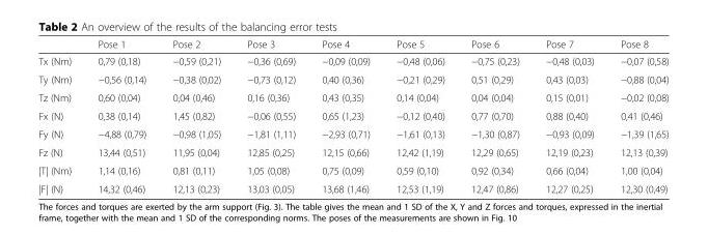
<table><thead><tr><td></td><td>Pose 1</td><td>Pose 2</td><td>Pose 3</td><td>Pose 4</td><td>Pose 5</td><td>Pose 6</td><td>Pose 7</td><td>Pose 8</td></tr></thead><tbody><tr><td>Tx (Nm)</td><td>0,79 (0,18)</td><td>−0,59 (0,21)</td><td>−0,36 (0,69)</td><td>−0,09 (0,09)</td><td>−0,48 (0,06)</td><td>−0,75 (0,23)</td><td>−0,48 (0,03)</td><td>−0,07 (0,58)</td></tr><tr><td>Ty (Nm)</td><td>−0,56 (0,14)</td><td>−0,38 (0,02)</td><td>−0,73 (0,12)</td><td>0,40 (0,36)</td><td>−0,21 (0,29)</td><td>0,51 (0,29)</td><td>0,43 (0,03)</td><td>−0,88 (0,04)</td></tr><tr><td>Tz (Nm)</td><td>0,60 (0,04)</td><td>0,04 (0,46)</td><td>0,16 (0,36)</td><td>0,43 (0,35)</td><td>0,14 (0,04)</td><td>0,04 (0,04)</td><td>0,15 (0,01)</td><td>−0,02 (0,08)</td></tr><tr><td>Fx (N)</td><td>0,38 (0,14)</td><td>1,45 (0,82)</td><td>−0,06 (0,55)</td><td>0,65 (1,23)</td><td>−0,12 (0,40)</td><td>0,77 (0,70)</td><td>0,88 (0,40)</td><td>0,41 (0,46)</td></tr><tr><td>Fy (N)</td><td>−4,88 (0,79)</td><td>−0,98 (1,05)</td><td>−1,81 (1,11)</td><td>−2,93 (0,71)</td><td>−1,61 (0,13)</td><td>−1,30 (0,87)</td><td>−0,93 (0,09)</td><td>−1,39 (1,65)</td></tr><tr><td>Fz (N)</td><td>13,44 (0,51)</td><td>11,95 (0,04)</td><td>12,85 (0,25)</td><td>12,15 (0,66)</td><td>12,42 (1,19)</td><td>12,29 (0,65)</td><td>12,19 (0,23)</td><td>12,13 (0,39)</td></tr><tr><td>|T| (Nm)</td><td>1,14 (0,16)</td><td>0,81 (0,11)</td><td>1,05 (0,08)</td><td>0,75 (0,09)</td><td>0,59 (0,10)</td><td>0,92 (0,34)</td><td>0,66 (0,04)</td><td>1,00 (0,04)</td></tr><tr><td>|F| (N)</td><td>14,32 (0,46)</td><td>12,13 (0,23)</td><td>13,03 (0,05)</td><td>13,68 (1,46)</td><td>12,53 (1,19)</td><td>12,47 (0,86)</td><td>12,27 (0,25)</td><td>12,30 (0,49)</td></tr></tbody></table>